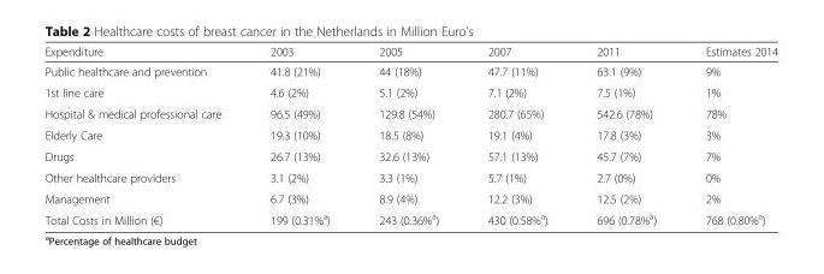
<table><thead><tr><td>Expenditure</td><td>2003</td><td>2005</td><td>2007</td><td>2011</td><td>Estimates 2014</td></tr></thead><tbody><tr><td>Public healthcare and prevention</td><td>41.8 (21%)</td><td>44 (18%)</td><td>47.7 (11%)</td><td>63.1 (9%)</td><td>9%</td></tr><tr><td>1st line care</td><td>4.6 (2%)</td><td>5.1 (2%)</td><td>7.1 (2%)</td><td>7.5 (1%)</td><td>1%</td></tr><tr><td>Hospital &amp; medical professional care</td><td>96.5 (49%)</td><td>129.8 (54%)</td><td>280.7 (65%)</td><td>542.6 (78%)</td><td>78%</td></tr><tr><td>Elderly Care</td><td>19.3 (10%)</td><td>18.5 (8%)</td><td>19.1 (4%)</td><td>17.8 (3%)</td><td>3%</td></tr><tr><td>Drugs</td><td>26.7 (13%)</td><td>32.6 (13%)</td><td>57.1 (13%)</td><td>45.7 (7%)</td><td>7%</td></tr><tr><td>Other healthcare providers</td><td>3.1 (2%)</td><td>3.3 (1%)</td><td>5.7 (1%)</td><td>2.7 (0%)</td><td>0%</td></tr><tr><td>Management</td><td>6.7 (3%)</td><td>8.9 (4%)</td><td>12.2 (3%)</td><td>12.5 (2%)</td><td>2%</td></tr><tr><td>Total Costs in Million (€)</td><td>199 (0.31%<sup>a</sup>)</td><td>243 (0.36%<sup>a</sup>)</td><td>430 (0.58%<sup>a</sup>)</td><td>696 (0.78%<sup>a</sup>)</td><td>768 (0.80%<sup>a</sup>)</td></tr></tbody></table>